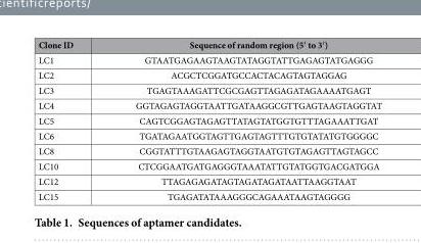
<table><thead><tr><td>Clone ID</td><td>Sequence of random region (5′ to 3′ )</td></tr></thead><tbody><tr><td>LC1</td><td>GTAATGAGAAGTAAGTATAGGTATTGAGAGTATGAGGG</td></tr><tr><td>LC2</td><td>ACGCTCGGATGCCACTACAGTAGTAGGAG</td></tr><tr><td>LC3</td><td>TGAGTAAAGATTCGCGAGTTAGAGATAGAAAATGAGT</td></tr><tr><td>LC4</td><td>GGTAGAGTAGGTAATTGATAAGGCGTTGAGTAAGTAGGTAT</td></tr><tr><td>LC5</td><td>CAGTCGGAGTAGAGTTATAGTATGGTGTTTAGAAATTGAT</td></tr><tr><td>LC6</td><td>TGATAGAATGGTAGTTGAGTAGTTTGTGTATATGTGGGGC</td></tr><tr><td>LC8</td><td>CGGTATTTGTAAGAGTAGGTAATGTGTAGAGTTAGTAGCC</td></tr><tr><td>LC10</td><td>CTCGGAATGATGAGGGTAAATATTGTATGGTGACGATGGA</td></tr><tr><td>LC12</td><td>TTAGAGAGATAGTAGATAGATAATTAAGGTAAT</td></tr><tr><td>LC15</td><td>TGAGATATAAAGGGCAGAAATAAGTAGGGG</td></tr></tbody></table>